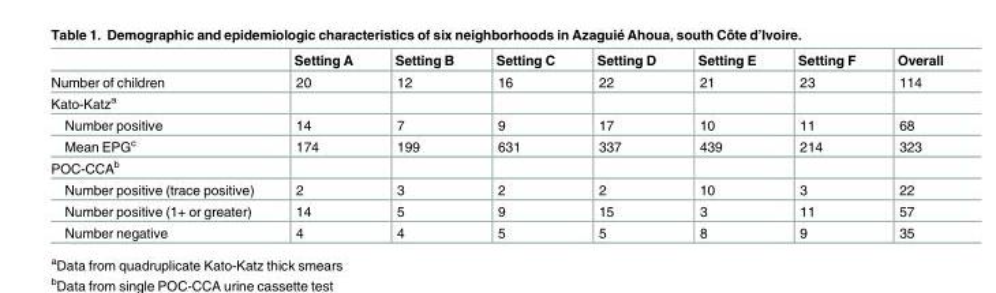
<table><thead><tr><td></td><td>Setting A</td><td>Setting B</td><td>Setting C</td><td>Setting D</td><td>Setting E</td><td>Setting F</td><td>Overall</td></tr></thead><tbody><tr><td>Number of children</td><td>20</td><td>12</td><td>16</td><td>22</td><td>21</td><td>23</td><td>114</td></tr><tr><td colspan="8">Kato-Katz<sup>a</sup></td></tr><tr><td>Number positive</td><td>14</td><td>7</td><td>9</td><td>17</td><td>10</td><td>11</td><td>68</td></tr><tr><td>Mean EPG<sup>c</sup></td><td>174</td><td>199</td><td>631</td><td>337</td><td>439</td><td>214</td><td>323</td></tr><tr><td colspan="8">POC-CCA<sup>b</sup></td></tr><tr><td>Number positive (trace positive)</td><td>2</td><td>3</td><td>2</td><td>2</td><td>10</td><td>3</td><td>22</td></tr><tr><td>Number positive (1+ or greater)</td><td>14</td><td>5</td><td>9</td><td>15</td><td>3</td><td>11</td><td>57</td></tr><tr><td>Number negative</td><td>4</td><td>4</td><td>5</td><td>5</td><td>8</td><td>9</td><td>35</td></tr></tbody></table>